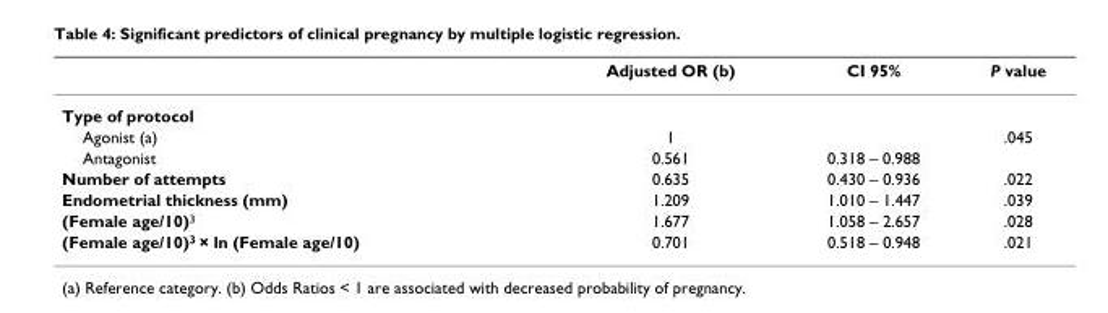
<table><thead><tr><td></td><td>Adjusted OR (b)</td><td>CI 95%</td><td>P value</td></tr></thead><tbody><tr><td colspan="4">Type of protocol</td></tr><tr><td>Agonist (a)</td><td>1</td><td></td><td>.045</td></tr><tr><td>Antagonist</td><td>0.561</td><td>0.318 – 0.988</td><td></td></tr><tr><td>Number of attempts</td><td>0.635</td><td>0.430 – 0.936</td><td>.022</td></tr><tr><td>Endometrial thickness (mm)</td><td>1.209</td><td>1.010 – 1.447</td><td>.039</td></tr><tr><td>(Female age/10)<sup>3</sup></td><td>1.677</td><td>1.058 – 2.657</td><td>.028</td></tr><tr><td>(Female age/10)<sup>3</sup> × ln (Female age/10)</td><td>0.701</td><td>0.518 – 0.948</td><td>.021</td></tr></tbody></table>